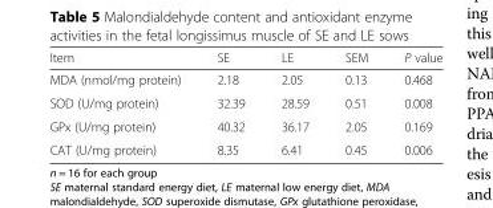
<table><thead><tr><td>Item</td><td>SE</td><td>LE</td><td>SEM</td><td>P value</td></tr></thead><tbody><tr><td>MDA (nmol/mg protein)</td><td>2.18</td><td>2.05</td><td>0.13</td><td>0.468</td></tr><tr><td>SOD (U/mg protein)</td><td>32.39</td><td>28.59</td><td>0.51</td><td>0.008</td></tr><tr><td>GPx (U/mg protein)</td><td>40.32</td><td>36.17</td><td>2.05</td><td>0.169</td></tr><tr><td>CAT (U/mg protein)</td><td>8.35</td><td>6.41</td><td>0.45</td><td>0.006</td></tr></tbody></table>